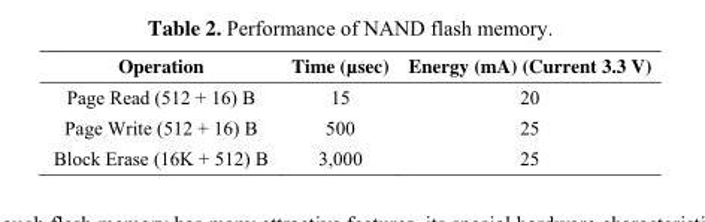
<table><thead><tr><td>Operation</td><td>Time (µsec)</td><td>Energy (mA) (Current 3.3 V)</td></tr></thead><tbody><tr><td>Page Read (512 + 16) B</td><td>15</td><td>20</td></tr><tr><td>Page Write (512 + 16) B</td><td>500</td><td>25</td></tr><tr><td>Block Erase (16K + 512) B</td><td>3,000</td><td>25</td></tr></tbody></table>